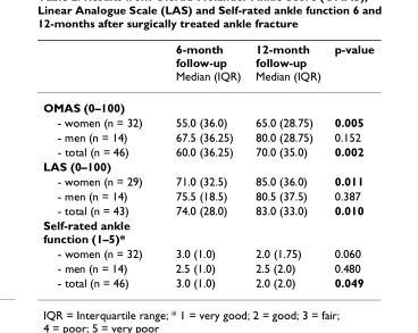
<table><thead><tr><td></td><td>6-month follow-up Median (IQR)</td><td>12-month follow-up Median (IQR)</td><td>p-value</td></tr></thead><tbody><tr><td colspan="4">OMAS (0–100)</td></tr><tr><td>- women (n = 32)</td><td>55.0 (36.0)</td><td>65.0 (28.75)</td><td>0.005</td></tr><tr><td>- men (n = 14)</td><td>67.5 (36.25)</td><td>80.0 (28.75)</td><td>0.152</td></tr><tr><td>- total (n = 46)</td><td>60.0 (36.25)</td><td>70.0 (35.0)</td><td>0.002</td></tr><tr><td colspan="4">LAS (0–100)</td></tr><tr><td>- women (n = 29)</td><td>71.0 (32.5)</td><td>85.0 (36.0)</td><td>0.011</td></tr><tr><td>- men (n = 14)</td><td>75.5 (18.5)</td><td>80.5 (37.5)</td><td>0.387</td></tr><tr><td>- total (n = 43)</td><td>74.0 (28.0)</td><td>83.0 (33.0)</td><td>0.010</td></tr><tr><td colspan="4">Self-rated ankle function (1–5)*</td></tr><tr><td>- women (n = 32)</td><td>3.0 (1.0)</td><td>2.0 (1.75)</td><td>0.060</td></tr><tr><td>- men (n = 14)</td><td>2.5 (1.0)</td><td>2.5 (2.0)</td><td>0.480</td></tr><tr><td>- total (n = 46)</td><td>3.0 (1.0)</td><td>2.0 (2.0)</td><td>0.049</td></tr></tbody></table>